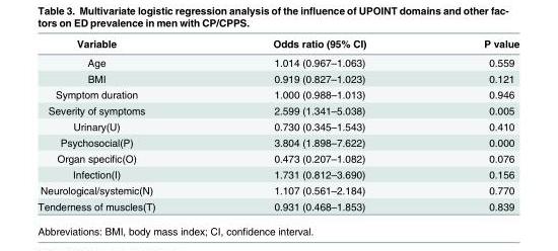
<table><thead><tr><td>Variable</td><td>Odds ratio (95% CI)</td><td>P value</td></tr></thead><tbody><tr><td>Age</td><td>1.014 (0.967–1.063)</td><td>0.559</td></tr><tr><td>BMI</td><td>0.919 (0.827–1.023)</td><td>0.121</td></tr><tr><td>Symptom duration</td><td>1.000 (0.988–1.013)</td><td>0.946</td></tr><tr><td>Severity of symptoms</td><td>2.599 (1.341–5.038)</td><td>0.005</td></tr><tr><td>Urinary(U)</td><td>0.730 (0.345–1.543)</td><td>0.410</td></tr><tr><td>Psychosocial(P)</td><td>3.804 (1.898–7.622)</td><td>0.000</td></tr><tr><td>Organ specific(O)</td><td>0.473 (0.207–1.082)</td><td>0.076</td></tr><tr><td>Infection(I)</td><td>1.731 (0.812–3.690)</td><td>0.156</td></tr><tr><td>Neurological/systemic(N)</td><td>1.107 (0.561–2.184)</td><td>0.770</td></tr><tr><td>Tenderness of muscles(T)</td><td>0.931 (0.468–1.853)</td><td>0.839</td></tr></tbody></table>